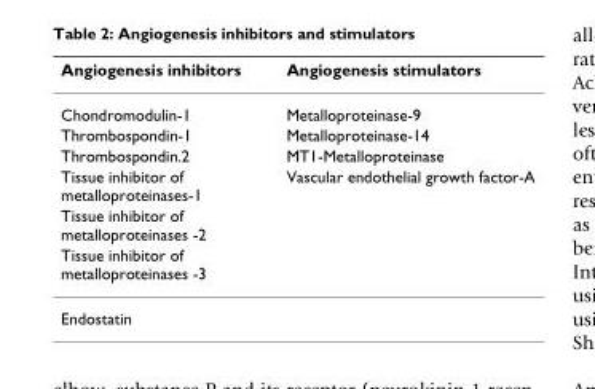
<table><thead><tr><td>Angiogenesis inhibitors</td><td>Angiogenesis stimulators</td></tr></thead><tbody><tr><td>Chondromodulin-1</td><td>Metalloproteinase-9</td></tr><tr><td>Thrombospondin-1</td><td>Metalloproteinase-14</td></tr><tr><td>Thrombospondin.2</td><td>MT1-Metalloproteinase</td></tr><tr><td>Tissue inhibitor of metalloproteinases-1</td><td>Vascular endothelial growth factor-A</td></tr><tr><td colspan="2">Tissue inhibitor of metalloproteinases -2</td></tr><tr><td colspan="2">Tissue inhibitor of metalloproteinases -3</td></tr><tr><td>Endostatin</td><td></td></tr></tbody></table>